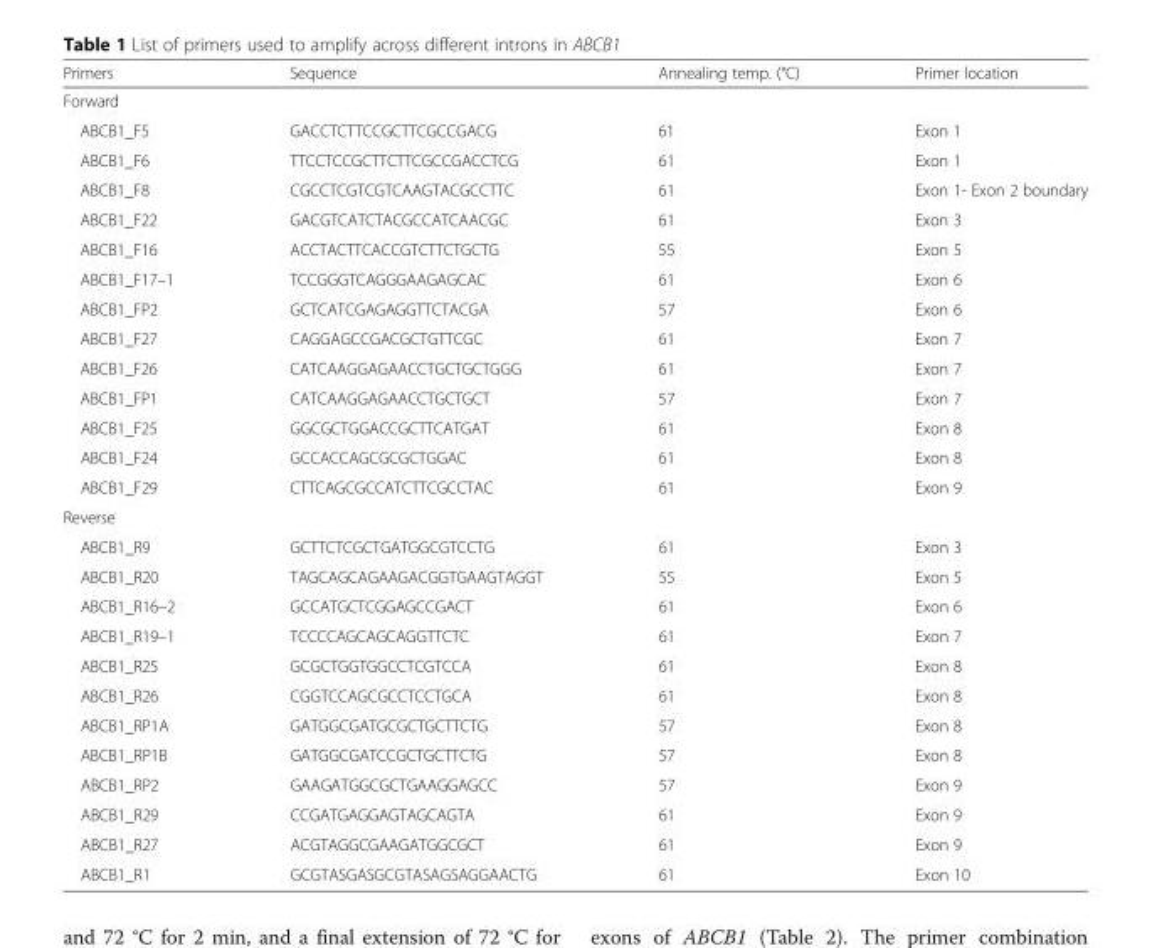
<table><thead><tr><td>Primers</td><td>Sequence</td><td>Annealing temp. (°C)</td><td>Primer location</td></tr></thead><tbody><tr><td colspan="4">Forward</td></tr><tr><td>ABCB1_F5</td><td>GACCTCTTCCGCTTCGCCGACG</td><td>61</td><td>Exon 1</td></tr><tr><td>ABCB1_F6</td><td>TTCCTCCGCTTCTTCGCCGACCTCG</td><td>61</td><td>Exon 1</td></tr><tr><td>ABCB1_F8</td><td>CGCCTCGTCGTCAAGTACGCCTTC</td><td>61</td><td>Exon 1- Exon 2 boundary</td></tr><tr><td>ABCB1_F22</td><td>GACGTCATCTACGCCATCAACGC</td><td>61</td><td>Exon 3</td></tr><tr><td>ABCB1_F16</td><td>ACCTACTTCACCGTCTTCTGCTG</td><td>55</td><td>Exon 5</td></tr><tr><td>ABCB1_F17–1</td><td>TCCGGGTCAGGGAAGAGCAC</td><td>61</td><td>Exon 6</td></tr><tr><td>ABCB1_FP2</td><td>GCTCATCGAGAGGTTCTACGA</td><td>57</td><td>Exon 6</td></tr><tr><td>ABCB1_F27</td><td>CAGGAGCCGACGCTGTTCGC</td><td>61</td><td>Exon 7</td></tr><tr><td>ABCB1_F26</td><td>CATCAAGGAGAACCTGCTGCTGGG</td><td>61</td><td>Exon 7</td></tr><tr><td>ABCB1_FP1</td><td>CATCAAGGAGAACCTGCTGCT</td><td>57</td><td>Exon 7</td></tr><tr><td>ABCB1_F25</td><td>GGCGCTGGACCGCTTCATGAT</td><td>61</td><td>Exon 8</td></tr><tr><td>ABCB1_F24</td><td>GCCACCAGCGCGCTGGAC</td><td>61</td><td>Exon 8</td></tr><tr><td>ABCB1_F29</td><td>CTTCAGCGCCATCTTCGCCTAC</td><td>61</td><td>Exon 9</td></tr><tr><td colspan="4">Reverse</td></tr><tr><td>ABCB1_R9</td><td>GCTTCTCGCTGATGGCGTCCTG</td><td>61</td><td>Exon 3</td></tr><tr><td>ABCB1_R20</td><td>TAGCAGCAGAAGACGGTGAAGTAGGT</td><td>55</td><td>Exon 5</td></tr><tr><td>ABCB1_R16–2</td><td>GCCATGCTCGGAGCCGACT</td><td>61</td><td>Exon 6</td></tr><tr><td>ABCB1_R19–1</td><td>TCCCCAGCAGCAGGTTCTC</td><td>61</td><td>Exon 7</td></tr><tr><td>ABCB1_R25</td><td>GCGCTGGTGGCCTCGTCCA</td><td>61</td><td>Exon 8</td></tr><tr><td>ABCB1_R26</td><td>CGGTCCAGCGCCTCCTGCA</td><td>61</td><td>Exon 8</td></tr><tr><td>ABCB1_RP1A</td><td>GATGGCGATGCGCTGCTTCTG</td><td>57</td><td>Exon 8</td></tr><tr><td>ABCB1_RP1B</td><td>GATGGCGATCCGCTGCTTCTG</td><td>57</td><td>Exon 8</td></tr><tr><td>ABCB1_RP2</td><td>GAAGATGGCGCTGAAGGAGCC</td><td>57</td><td>Exon 9</td></tr><tr><td>ABCB1_R29</td><td>CCGATGAGGAGTAGCAGTA</td><td>61</td><td>Exon 9</td></tr><tr><td>ABCB1_R27</td><td>ACGTAGGCGAAGATGGCGCT</td><td>61</td><td>Exon 9</td></tr><tr><td>ABCB1_R1</td><td>GCGTASGASGCGTASAGSAGGAACTG</td><td>61</td><td>Exon 10</td></tr></tbody></table>